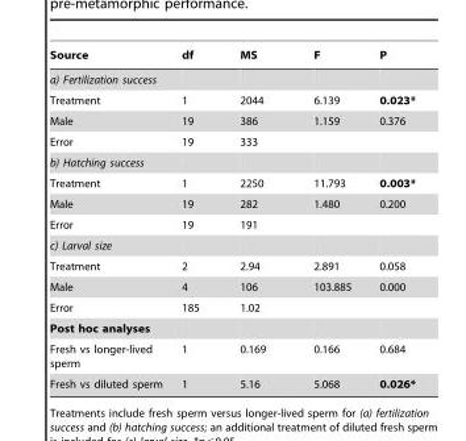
<table><thead><tr><td>Source</td><td>df</td><td>MS</td><td>F</td><td>P</td></tr></thead><tbody><tr><td colspan="5">a) Fertilization success</td></tr><tr><td>Treatment</td><td>1</td><td>2044</td><td>6.139</td><td>0.023*</td></tr><tr><td>Male</td><td>19</td><td>386</td><td>1.159</td><td>0.376</td></tr><tr><td>Error</td><td>19</td><td>333</td><td></td><td></td></tr><tr><td colspan="5">b) Hatching success</td></tr><tr><td>Treatment</td><td>1</td><td>2250</td><td>11.793</td><td>0.003*</td></tr><tr><td>Male</td><td>19</td><td>282</td><td>1.480</td><td>0.200</td></tr><tr><td>Error</td><td>19</td><td>191</td><td></td><td></td></tr><tr><td colspan="5">c) Larval size</td></tr><tr><td>Treatment</td><td>2</td><td>2.94</td><td>2.891</td><td>0.058</td></tr><tr><td>Male</td><td>4</td><td>106</td><td>103.885</td><td>0.000</td></tr><tr><td>Error</td><td>185</td><td>1.02</td><td></td><td></td></tr><tr><td colspan="5">Post hoc analyses</td></tr><tr><td>Fresh vs longer-lived sperm</td><td>1</td><td>0.169</td><td>0.166</td><td>0.684</td></tr><tr><td>Fresh vs diluted sperm</td><td>1</td><td>5.16</td><td>5.068</td><td>0.026*</td></tr></tbody></table>